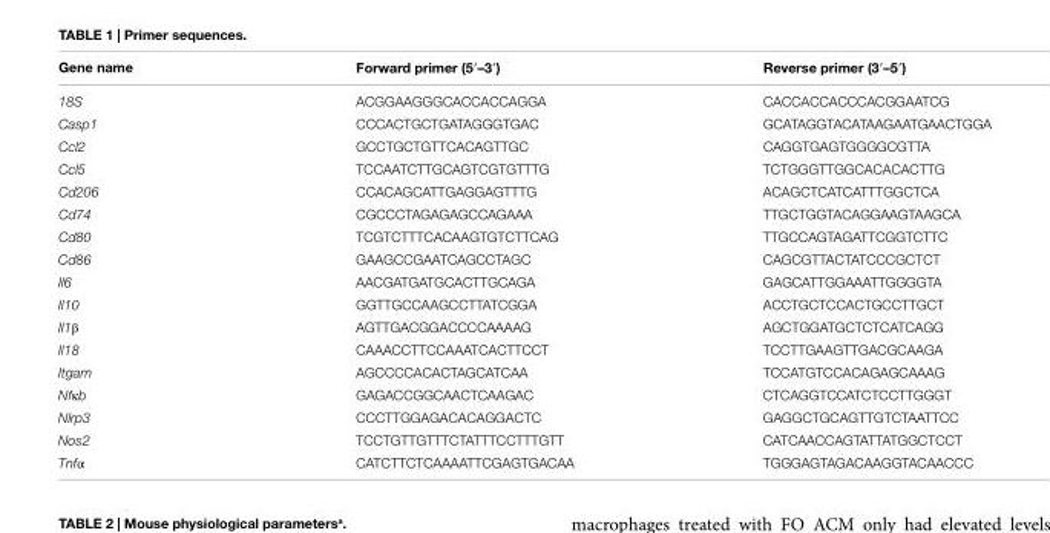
<table><thead><tr><td>gene name</td><td>Forward primer (5′–3′)</td><td>reverse primer (3′–5′)</td></tr></thead><tbody><tr><td>18S</td><td>ACGGAAGGGCACCACCAGGA</td><td>CACCACCACCCACGGAATCG</td></tr><tr><td>Casp1</td><td>CCCACTGCTGATAGGGTGAC</td><td>GCATAGGTACATAAGAATGAACTGGA</td></tr><tr><td>Ccl2</td><td>GCCTGCTGTTCACAGTTGC</td><td>CAGGTGAGTGGGGCGTTA</td></tr><tr><td>Ccl5</td><td>TCCAATCTTGCAGTCGTGTTTG</td><td>TCTGGGTTGGCACACACTTG</td></tr><tr><td>Cd206</td><td>CCACAGCATTGAGGAGTTTG</td><td>ACAGCTCATCATTTGGCTCA</td></tr><tr><td>Cd74</td><td>CGCCCTAGAGAGCCAGAAA</td><td>TTGCTGGTACAGGAAGTAAGCA</td></tr><tr><td>Cd80</td><td>TCGTCTTTCACAAGTGTCTTCAG</td><td>TTGCCAGTAGATTCGGTCTTC</td></tr><tr><td>Cd86</td><td>GAAGCCGAATCAGCCTAGC</td><td>CAGCGTTACTATCCCGCTCT</td></tr><tr><td>Il6</td><td>AACGATGATGCACTTGCAGA</td><td>GAGCATTGGAAATTGGGGTA</td></tr><tr><td>Il10</td><td>GGTTGCCAAGCCTTATCGGA</td><td>ACCTGCTCCACTGCCTTGCT</td></tr><tr><td>Il1β</td><td>AGTTGACGGACCCCAAAAG</td><td>AGCTGGATGCTCTCATCAGG</td></tr><tr><td>Il18</td><td>CAAACCTTCCAAATCACTTCCT</td><td>TCCTTGAAGTTGACGCAAGA</td></tr><tr><td>Itgam</td><td>AGCCCCACACTAGCATCAA</td><td>TCCATGTCCACAGAGCAAAG</td></tr><tr><td>Nfκb</td><td>GAGACCGGCAACTCAAGAC</td><td>CTCAGGTCCATCTCCTTGGGT</td></tr><tr><td>Nlrp3</td><td>CCCTTGGAGACACAGGACTC</td><td>GAGGCTGCAGTTGTCTAATTCC</td></tr><tr><td>Nos2</td><td>TCCTGTTGTTTCTATTTCCTTTGTT</td><td>CATCAACCAGTATTATGGCTCCT</td></tr><tr><td>Tnfα</td><td>CATCTTCTCAAAATTCGAGTGACAA</td><td>TGGGAGTAGACAAGGTACAACCC</td></tr></tbody></table>